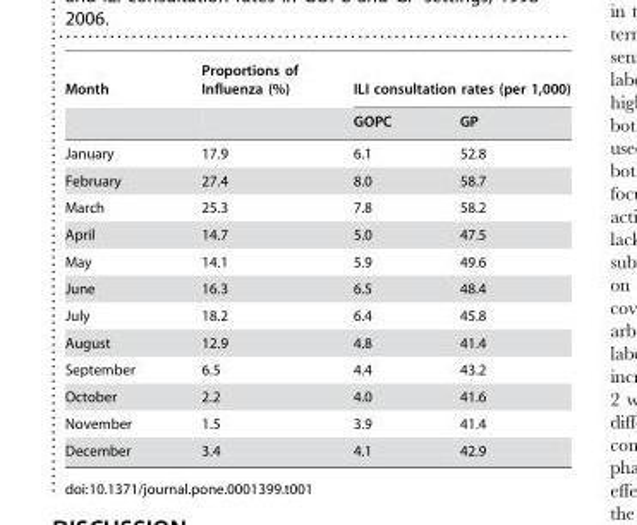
<table><thead><tr><td rowspan="2">Month</td><td rowspan="2">Proportions of Influenza (%)</td><td colspan="2">ILI consultation rates (per 1,000)</td></tr><tr><td>GOPC</td><td>GP</td></tr></thead><tbody><tr><td>January</td><td>17.9</td><td>6.1</td><td>52.8</td></tr><tr><td>February</td><td>27.4</td><td>8.0</td><td>58.7</td></tr><tr><td>March</td><td>25.3</td><td>7.8</td><td>58.2</td></tr><tr><td>April</td><td>14.7</td><td>5.0</td><td>47.5</td></tr><tr><td>May</td><td>14.1</td><td>5.9</td><td>49.6</td></tr><tr><td>June</td><td>16.3</td><td>6.5</td><td>48.4</td></tr><tr><td>July</td><td>18.2</td><td>6.4</td><td>45.8</td></tr><tr><td>August</td><td>12.9</td><td>4.8</td><td>41.4</td></tr><tr><td>September</td><td>6.5</td><td>4.4</td><td>43.2</td></tr><tr><td>October</td><td>2.2</td><td>4.0</td><td>41.6</td></tr><tr><td>November</td><td>1.5</td><td>3.9</td><td>41.4</td></tr><tr><td>December</td><td>3.4</td><td>4.1</td><td>42.9</td></tr></tbody></table>